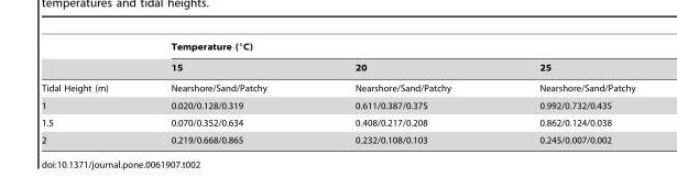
<table><thead><tr><td rowspan="2"></td><td colspan="3">Temperature (°C)</td></tr><tr><td>15</td><td>20</td><td>25</td></tr></thead><tbody><tr><td>Tidal Height (m)</td><td>Nearshore/Sand/Patchy</td><td>Nearshore/Sand/Patchy</td><td>Nearshore/Sand/Patchy</td></tr><tr><td>1</td><td>0.020/0.128/0.319</td><td>0.611/0.387/0.375</td><td>0.992/0.732/0.435</td></tr><tr><td>1.5</td><td>0.070/0.352/0.634</td><td>0.408/0.217/0.208</td><td>0.862/0.124/0.038</td></tr><tr><td>2</td><td>0.219/0.668/0.865</td><td>0.232/0.108/0.103</td><td>0.245/0.007/0.002</td></tr></tbody></table>